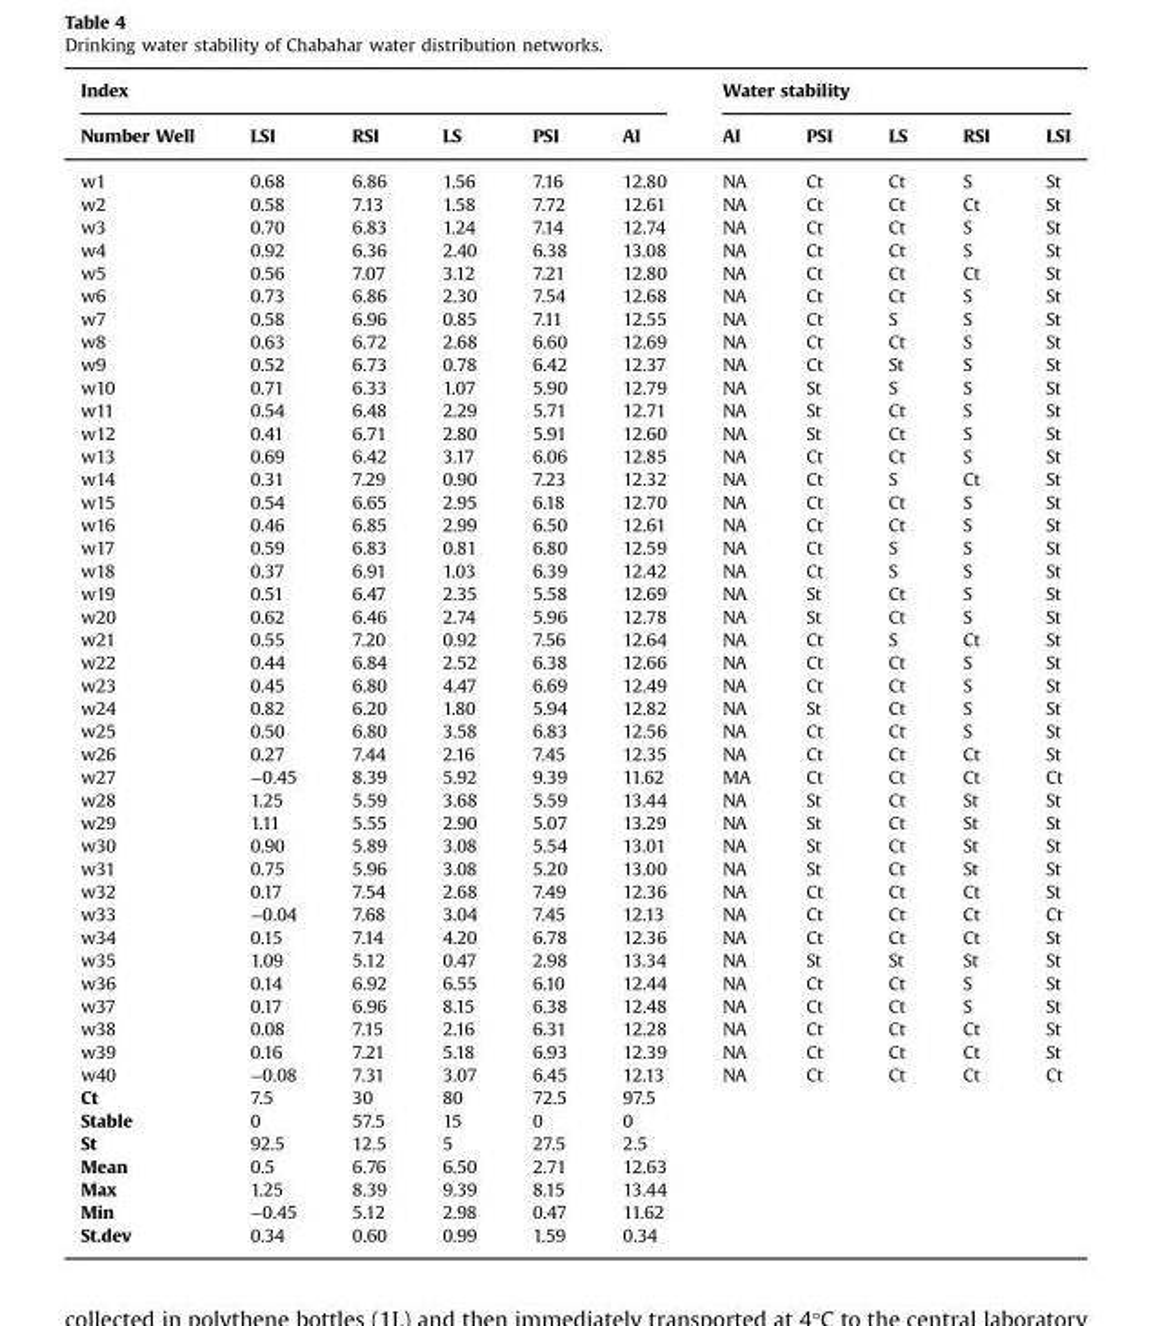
<table><thead><tr><td colspan="6">Index</td><td colspan="5">Water stability</td></tr><tr><td>Number Well</td><td>LSI</td><td>RSI</td><td>LS</td><td>PSI</td><td>AI</td><td>AI</td><td>PSI</td><td>LS</td><td>RSI</td><td>LSI</td></tr></thead><tbody><tr><td>w1</td><td>0.68</td><td>6.86</td><td>1.56</td><td>7.16</td><td>12.80</td><td>NA</td><td>Ct</td><td>Ct</td><td>S</td><td>St</td></tr><tr><td>w2</td><td>0.58</td><td>7.13</td><td>1.58</td><td>7.72</td><td>12.61</td><td>NA</td><td>Ct</td><td>Ct</td><td>Ct</td><td>St</td></tr><tr><td>w3</td><td>0.70</td><td>6.83</td><td>1.24</td><td>7.14</td><td>12.74</td><td>NA</td><td>Ct</td><td>Ct</td><td>S</td><td>St</td></tr><tr><td>w4</td><td>0.92</td><td>6.36</td><td>2.40</td><td>6.38</td><td>13.08</td><td>NA</td><td>Ct</td><td>Ct</td><td>S</td><td>St</td></tr><tr><td>w5</td><td>0.56</td><td>7.07</td><td>3.12</td><td>7.21</td><td>12.80</td><td>NA</td><td>Ct</td><td>Ct</td><td>Ct</td><td>St</td></tr><tr><td>w6</td><td>0.73</td><td>6.86</td><td>2.30</td><td>7.54</td><td>12.68</td><td>NA</td><td>Ct</td><td>Ct</td><td>S</td><td>St</td></tr><tr><td>w7</td><td>0.58</td><td>6.96</td><td>0.85</td><td>7.11</td><td>12.55</td><td>NA</td><td>Ct</td><td>S</td><td>S</td><td>St</td></tr><tr><td>w8</td><td>0.63</td><td>6.72</td><td>2.68</td><td>6.60</td><td>12.69</td><td>NA</td><td>Ct</td><td>Ct</td><td>S</td><td>St</td></tr><tr><td>w9</td><td>0.52</td><td>6.73</td><td>0.78</td><td>6.42</td><td>12.37</td><td>NA</td><td>Ct</td><td>St</td><td>S</td><td>St</td></tr><tr><td>w10</td><td>0.71</td><td>6.33</td><td>1.07</td><td>5.90</td><td>12.79</td><td>NA</td><td>St</td><td>S</td><td>S</td><td>St</td></tr><tr><td>w11</td><td>0.54</td><td>6.48</td><td>2.29</td><td>5.71</td><td>12.71</td><td>NA</td><td>St</td><td>Ct</td><td>S</td><td>St</td></tr><tr><td>w12</td><td>0.41</td><td>6.71</td><td>2.80</td><td>5.91</td><td>12.60</td><td>NA</td><td>St</td><td>Ct</td><td>S</td><td>St</td></tr><tr><td>w13</td><td>0.69</td><td>6.42</td><td>3.17</td><td>6.06</td><td>12.85</td><td>NA</td><td>Ct</td><td>Ct</td><td>S</td><td>St</td></tr><tr><td>w14</td><td>0.31</td><td>7.29</td><td>0.90</td><td>7.23</td><td>12.32</td><td>NA</td><td>Ct</td><td>S</td><td>Ct</td><td>St</td></tr><tr><td>w15</td><td>0.54</td><td>6.65</td><td>2.95</td><td>6.18</td><td>12.70</td><td>NA</td><td>Ct</td><td>Ct</td><td>S</td><td>St</td></tr><tr><td>w16</td><td>0.46</td><td>6.85</td><td>2.99</td><td>6.50</td><td>12.61</td><td>NA</td><td>Ct</td><td>Ct</td><td>S</td><td>St</td></tr><tr><td>w17</td><td>0.59</td><td>6.83</td><td>0.81</td><td>6.80</td><td>12.59</td><td>NA</td><td>Ct</td><td>S</td><td>S</td><td>St</td></tr><tr><td>w18</td><td>0.37</td><td>6.91</td><td>1.03</td><td>6.39</td><td>12.42</td><td>NA</td><td>Ct</td><td>S</td><td>S</td><td>St</td></tr><tr><td>w19</td><td>0.51</td><td>6.47</td><td>2.35</td><td>5.58</td><td>12.69</td><td>NA</td><td>St</td><td>Ct</td><td>S</td><td>St</td></tr><tr><td>w20</td><td>0.62</td><td>6.46</td><td>2.74</td><td>5.96</td><td>12.78</td><td>NA</td><td>St</td><td>Ct</td><td>S</td><td>St</td></tr><tr><td>w21</td><td>0.55</td><td>7.20</td><td>0.92</td><td>7.56</td><td>12.64</td><td>NA</td><td>Ct</td><td>S</td><td>Ct</td><td>St</td></tr><tr><td>w22</td><td>0.44</td><td>6.84</td><td>2.52</td><td>6.38</td><td>12.66</td><td>NA</td><td>Ct</td><td>Ct</td><td>S</td><td>St</td></tr><tr><td>w23</td><td>0.45</td><td>6.80</td><td>4.47</td><td>6.69</td><td>12.49</td><td>NA</td><td>Ct</td><td>Ct</td><td>S</td><td>St</td></tr><tr><td>w24</td><td>0.82</td><td>6.20</td><td>1.80</td><td>5.94</td><td>12.82</td><td>NA</td><td>St</td><td>Ct</td><td>S</td><td>St</td></tr><tr><td>w25</td><td>0.50</td><td>6.80</td><td>3.58</td><td>6.83</td><td>12.56</td><td>NA</td><td>Ct</td><td>Ct</td><td>S</td><td>St</td></tr><tr><td>w26</td><td>0.27</td><td>7.44</td><td>2.16</td><td>7.45</td><td>12.35</td><td>NA</td><td>Ct</td><td>Ct</td><td>Ct</td><td>St</td></tr><tr><td>w27</td><td>−0.45</td><td>8.39</td><td>5.92</td><td>9.39</td><td>11.62</td><td>MA</td><td>Ct</td><td>Ct</td><td>Ct</td><td>Ct</td></tr><tr><td>w28</td><td>1.25</td><td>5.59</td><td>3.68</td><td>5.59</td><td>13.44</td><td>NA</td><td>St</td><td>Ct</td><td>St</td><td>St</td></tr><tr><td>w29</td><td>1.11</td><td>5.55</td><td>2.90</td><td>5.07</td><td>13.29</td><td>NA</td><td>St</td><td>Ct</td><td>St</td><td>St</td></tr><tr><td>w30</td><td>0.90</td><td>5.89</td><td>3.08</td><td>5.54</td><td>13.01</td><td>NA</td><td>St</td><td>Ct</td><td>St</td><td>St</td></tr><tr><td>w31</td><td>0.75</td><td>5.96</td><td>3.08</td><td>5.20</td><td>13.00</td><td>NA</td><td>St</td><td>Ct</td><td>St</td><td>St</td></tr><tr><td>w32</td><td>0.17</td><td>7.54</td><td>2.68</td><td>7.49</td><td>12.36</td><td>NA</td><td>Ct</td><td>Ct</td><td>Ct</td><td>St</td></tr><tr><td>w33</td><td>−0.04</td><td>7.68</td><td>3.04</td><td>7.45</td><td>12.13</td><td>NA</td><td>Ct</td><td>Ct</td><td>Ct</td><td>Ct</td></tr><tr><td>w34</td><td>0.15</td><td>7.14</td><td>4.20</td><td>6.78</td><td>12.36</td><td>NA</td><td>Ct</td><td>Ct</td><td>Ct</td><td>St</td></tr><tr><td>w35</td><td>1.09</td><td>5.12</td><td>0.47</td><td>2.98</td><td>13.34</td><td>NA</td><td>St</td><td>St</td><td>St</td><td>St</td></tr><tr><td>w36</td><td>0.14</td><td>6.92</td><td>6.55</td><td>6.10</td><td>12.44</td><td>NA</td><td>Ct</td><td>Ct</td><td>S</td><td>St</td></tr><tr><td>w37</td><td>0.17</td><td>6.96</td><td>8.15</td><td>6.38</td><td>12.48</td><td>NA</td><td>Ct</td><td>Ct</td><td>S</td><td>St</td></tr><tr><td>w38</td><td>0.08</td><td>7.15</td><td>2.16</td><td>6.31</td><td>12.28</td><td>NA</td><td>Ct</td><td>Ct</td><td>Ct</td><td>St</td></tr><tr><td>w39</td><td>0.16</td><td>7.21</td><td>5.18</td><td>6.93</td><td>12.39</td><td>NA</td><td>Ct</td><td>Ct</td><td>Ct</td><td>St</td></tr><tr><td>w40</td><td>−0.08</td><td>7.31</td><td>3.07</td><td>6.45</td><td>12.13</td><td>NA</td><td>Ct</td><td>Ct</td><td>Ct</td><td>Ct</td></tr><tr><td>Ct</td><td>7.5</td><td>30</td><td>80</td><td>72.5</td><td>97.5</td><td></td><td></td><td></td><td></td><td></td></tr><tr><td>Stable</td><td>0</td><td>57.5</td><td>15</td><td>0</td><td>0</td><td></td><td></td><td></td><td></td><td></td></tr><tr><td>St</td><td>92.5</td><td>12.5</td><td>5</td><td>27.5</td><td>2.5</td><td></td><td></td><td></td><td></td><td></td></tr><tr><td>Mean</td><td>0.5</td><td>6.76</td><td>6.50</td><td>2.71</td><td>12.63</td><td></td><td></td><td></td><td></td><td></td></tr><tr><td>Max</td><td>1.25</td><td>8.39</td><td>9.39</td><td>8.15</td><td>13.44</td><td></td><td></td><td></td><td></td><td></td></tr><tr><td>Min</td><td>−0.45</td><td>5.12</td><td>2.98</td><td>0.47</td><td>11.62</td><td></td><td></td><td></td><td></td><td></td></tr><tr><td>St.dev</td><td>0.34</td><td>0.60</td><td>0.99</td><td>1.59</td><td>0.34</td><td></td><td></td><td></td><td></td><td></td></tr></tbody></table>